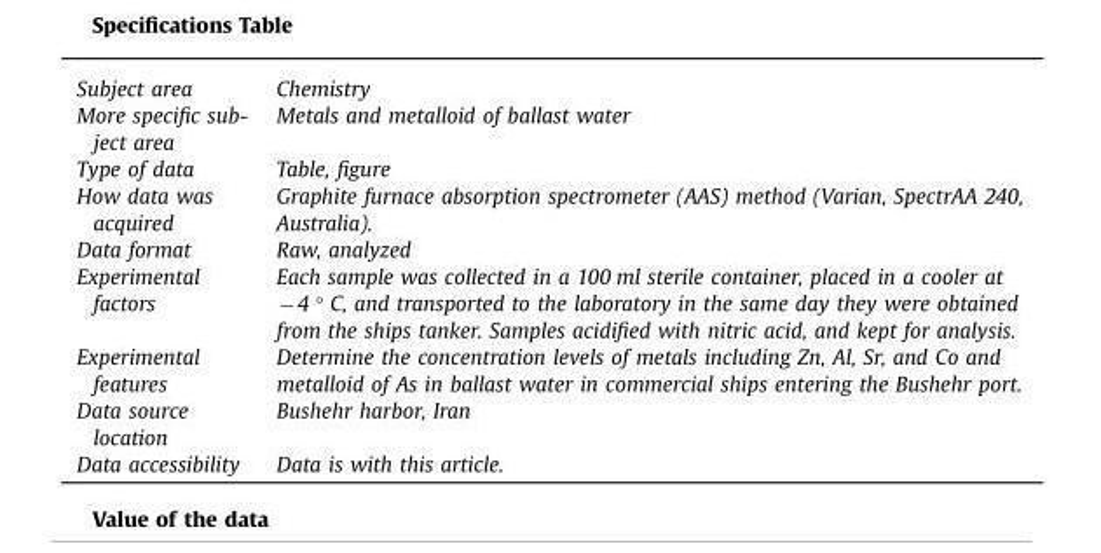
<table><tbody><tr><td>Subject area</td><td>Chemistry</td></tr><tr><td>More specific sub- ject area</td><td>Metals and metalloid of ballast water</td></tr><tr><td>Type of data</td><td>Table, figure</td></tr><tr><td>How data was acquired</td><td>Graphite furnace absorption spectrometer (AAS) method (Varian, SpectrAA 240, Australia).</td></tr><tr><td>Data format</td><td>Raw, analyzed</td></tr><tr><td>Experimental factors</td><td>Each sample was collected in a 100 ml sterile container, placed in a cooler at −4 ° C, and transported to the laboratory in the same day they were obtained from the ships tanker. Samples acidified with nitric acid, and kept for analysis.</td></tr><tr><td>Experimental features</td><td>Determine the concentration levels of metals including Zn, Al, Sr, and Co and metalloid of As in ballast water in commercial ships entering the Bushehr port.</td></tr><tr><td>Data source location</td><td>Bushehr harbor, Iran</td></tr><tr><td>Data accessibility</td><td>Data is with this article.</td></tr></tbody></table>